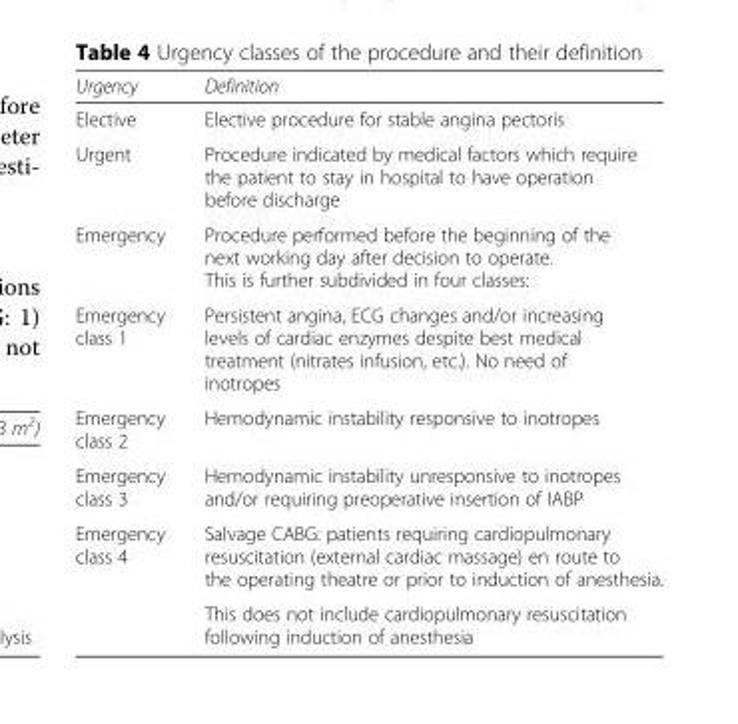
<table><thead><tr><td>Urgency</td><td>Definition</td></tr></thead><tbody><tr><td>Elective</td><td>Elective procedure for stable angina pectoris</td></tr><tr><td>Urgent</td><td>Procedure indicated by medical factors which require the patient to stay in hospital to have operation before discharge</td></tr><tr><td>Emergency</td><td>Procedure performed before the beginning of the next working day after decision to operate. This is further subdivided in four classes:</td></tr><tr><td>Emergency class 1</td><td>Persistent angina, ECG changes and/or increasing levels of cardiac enzymes despite best medical treatment (nitrates infusion, etc.). No need of inotropes</td></tr><tr><td>Emergency class 2</td><td>Hemodynamic instability responsive to inotropes</td></tr><tr><td>Emergency class 3</td><td>Hemodynamic instability unresponsive to inotropes and/or requiring preoperative insertion of IABP</td></tr><tr><td rowspan="2">Emergency class 4</td><td>Salvage CABG: patients requiring cardiopulmonary resuscitation (external cardiac massage) en route to the operating theatre or prior to induction of anesthesia.</td></tr><tr><td>This does not include cardiopulmonary resuscitation following induction of anesthesia</td></tr></tbody></table>